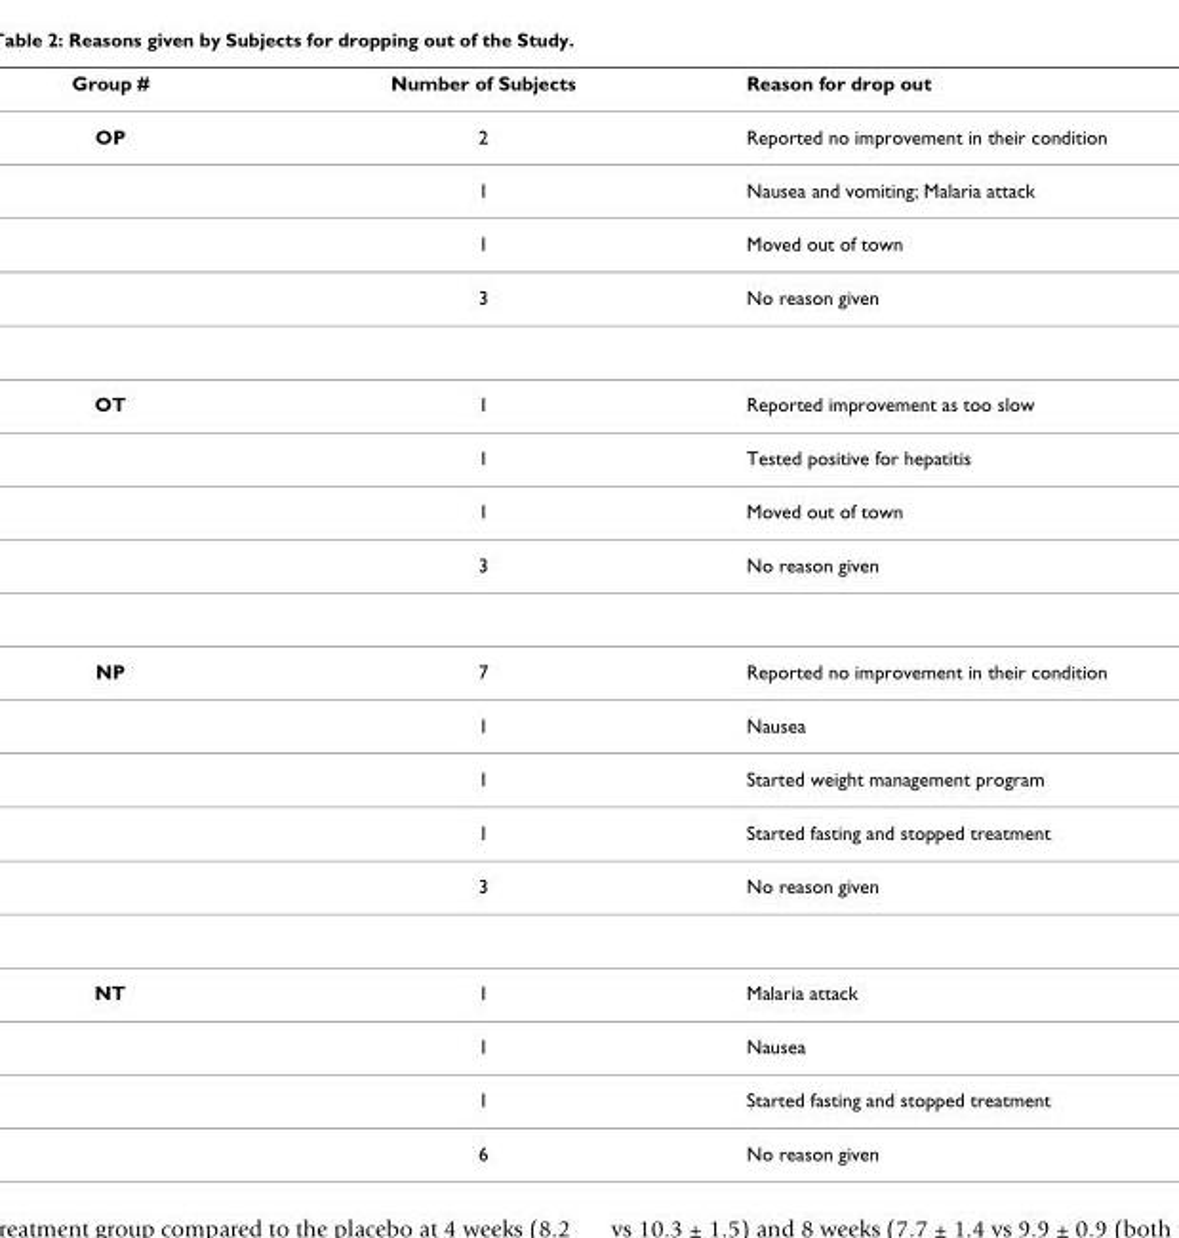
<table><thead><tr><td>Group #</td><td>Number of Subjects</td><td>Reason for drop out</td></tr></thead><tbody><tr><td rowspan="4">OP</td><td>2</td><td>Reported no improvement in their condition</td></tr><tr><td>1</td><td>Nausea and vomiting; Malaria attack</td></tr><tr><td>1</td><td>Moved out of town</td></tr><tr><td>3</td><td>No reason given</td></tr><tr><td rowspan="4">OT</td><td>1</td><td>Reported improvement as too slow</td></tr><tr><td>1</td><td>Tested positive for hepatitis</td></tr><tr><td>1</td><td>Moved out of town</td></tr><tr><td>3</td><td>No reason given</td></tr><tr><td rowspan="5">NP</td><td>7</td><td>Reported no improvement in their condition</td></tr><tr><td>1</td><td>Nausea</td></tr><tr><td>1</td><td>Started weight management program</td></tr><tr><td>1</td><td>Started fasting and stopped treatment</td></tr><tr><td>3</td><td>No reason given</td></tr><tr><td rowspan="4">NT</td><td>1</td><td>Malaria attack</td></tr><tr><td>1</td><td>Nausea</td></tr><tr><td>1</td><td>Started fasting and stopped treatment</td></tr><tr><td>6</td><td>No reason given</td></tr></tbody></table>